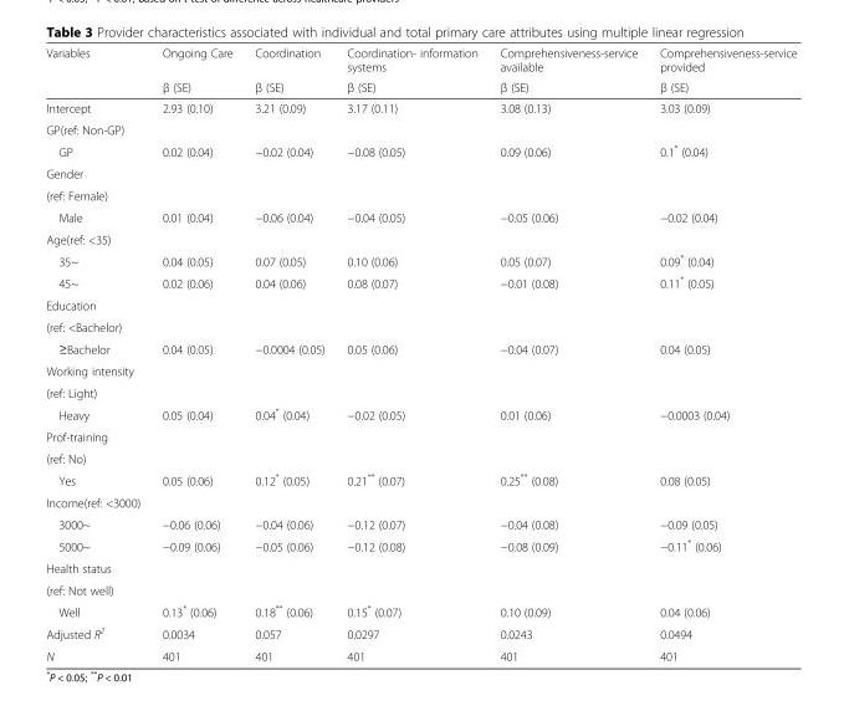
<table><thead><tr><td rowspan="2">Variables</td><td rowspan="2">Ongoing Care β (SE)</td><td rowspan="2">Coordination β (SE)</td><td rowspan="2">Coordination- information systems β (SE)</td><td rowspan="2">Comprehensiveness-service available β (SE)</td><td rowspan="2">Comprehensiveness-service provided β (SE)</td></tr><tr></tr></thead><tbody><tr><td>Intercept</td><td>2.93 (0.10)</td><td>3.21 (0.09)</td><td>3.17 (0.11)</td><td>3.08 (0.13)</td><td>3.03 (0.09)</td></tr><tr><td colspan="6">GP(ref: Non-GP)</td></tr><tr><td>GP</td><td>0.02 (0.04)</td><td>−0.02 (0.04)</td><td>−0.08 (0.05)</td><td>0.09 (0.06)</td><td>0.1* (0.04)</td></tr><tr><td>Gender</td><td rowspan="2"></td><td rowspan="2"></td><td rowspan="2"></td><td rowspan="2"></td><td rowspan="2"></td></tr><tr><td>(ref: Female)</td></tr><tr><td>Male</td><td>0.01 (0.04)</td><td>−0.06 (0.04)</td><td>−0.04 (0.05)</td><td>−0.05 (0.06)</td><td>−0.02 (0.04)</td></tr><tr><td colspan="6">Age(ref: &lt;35)</td></tr><tr><td>35~</td><td>0.04 (0.05)</td><td>0.07 (0.05)</td><td>0.10 (0.06)</td><td>0.05 (0.07)</td><td>0.09* (0.04)</td></tr><tr><td>45~</td><td>0.02 (0.06)</td><td>0.04 (0.06)</td><td>0.08 (0.07)</td><td>−0.01 (0.08)</td><td>0.11* (0.05)</td></tr><tr><td>Education</td><td rowspan="2"></td><td rowspan="2"></td><td rowspan="2"></td><td rowspan="2"></td><td rowspan="2"></td></tr><tr><td>(ref: &lt;Bachelor)</td></tr><tr><td>≥Bachelor</td><td>0.04 (0.05)</td><td>−0.0004 (0.05)</td><td>0.05 (0.06)</td><td>−0.04 (0.07)</td><td>0.04 (0.05)</td></tr><tr><td>Working intensity</td><td rowspan="2"></td><td rowspan="2"></td><td rowspan="2"></td><td rowspan="2"></td><td rowspan="2"></td></tr><tr><td>(ref: Light)</td></tr><tr><td>Heavy</td><td>0.05 (0.04)</td><td>0.04* (0.04)</td><td>−0.02 (0.05)</td><td>0.01 (0.06)</td><td>−0.0003 (0.04)</td></tr><tr><td>Prof-training</td><td rowspan="2"></td><td rowspan="2"></td><td rowspan="2"></td><td rowspan="2"></td><td rowspan="2"></td></tr><tr><td>(ref: No)</td></tr><tr><td>Yes</td><td>0.05 (0.06)</td><td>0.12* (0.05)</td><td>0.21** (0.07)</td><td>0.25** (0.08)</td><td>0.08 (0.05)</td></tr><tr><td colspan="6">Income(ref: &lt;3000)</td></tr><tr><td>3000~</td><td>−0.06 (0.06)</td><td>−0.04 (0.06)</td><td>−0.12 (0.07)</td><td>−0.04 (0.08)</td><td>−0.09 (0.05)</td></tr><tr><td>5000~</td><td>−0.09 (0.06)</td><td>−0.05 (0.06)</td><td>−0.12 (0.08)</td><td>−0.08 (0.09)</td><td>−0.11* (0.06)</td></tr><tr><td>Health status</td><td rowspan="2"></td><td rowspan="2"></td><td rowspan="2"></td><td rowspan="2"></td><td rowspan="2"></td></tr><tr><td>(ref: Not well)</td></tr><tr><td>Well</td><td>0.13* (0.06)</td><td>0.18** (0.06)</td><td>0.15* (0.07)</td><td>0.10 (0.09)</td><td>0.04 (0.06)</td></tr><tr><td>Adjusted R<sup>2</sup></td><td>0.0034</td><td>0.057</td><td>0.0297</td><td>0.0243</td><td>0.0494</td></tr><tr><td>N</td><td>401</td><td>401</td><td>401</td><td>401</td><td>401</td></tr></tbody></table>